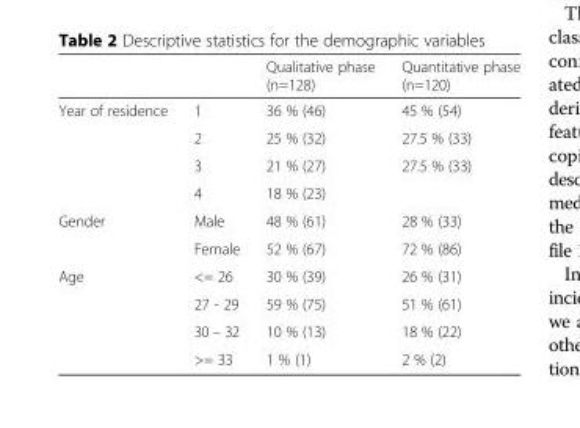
<table><thead><tr><td></td><td></td><td>Qualitative phase (n=128)</td><td>Quantitative phase (n=120)</td></tr></thead><tbody><tr><td rowspan="4">Year of residence</td><td>1</td><td>36 % (46)</td><td>45 % (54)</td></tr><tr><td>2</td><td>25 % (32)</td><td>27.5 % (33)</td></tr><tr><td>3</td><td>21 % (27)</td><td>27.5 % (33)</td></tr><tr><td>4</td><td>18 % (23)</td><td></td></tr><tr><td rowspan="2">Gender</td><td>Male</td><td>48 % (61)</td><td>28 % (33)</td></tr><tr><td>Female</td><td>52 % (67)</td><td>72 % (86)</td></tr><tr><td rowspan="4">Age</td><td>&lt;= 26</td><td>30 % (39)</td><td>26 % (31)</td></tr><tr><td>27 - 29</td><td>59 % (75)</td><td>51 % (61)</td></tr><tr><td>30 – 32</td><td>10 % (13)</td><td>18 % (22)</td></tr><tr><td>&gt;= 33</td><td>1 % (1)</td><td>2 % (2)</td></tr></tbody></table>